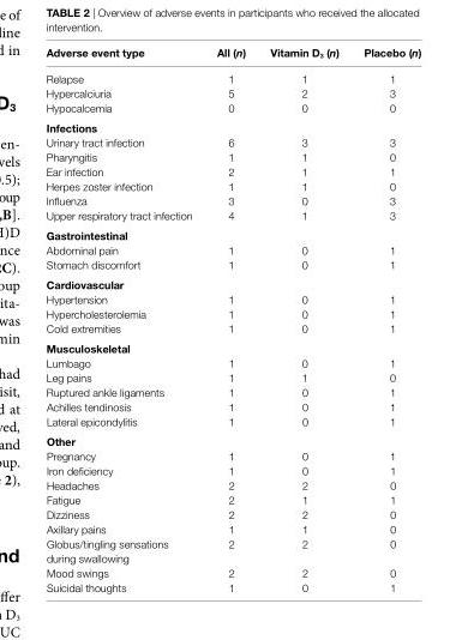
<table><thead><tr><td>adverse event type</td><td>all (n)</td><td>Vitamin D<sub>3</sub> (n)</td><td>Placebo (n)</td></tr></thead><tbody><tr><td>Relapse</td><td>1</td><td>1</td><td>1</td></tr><tr><td>Hypercalciuria</td><td>5</td><td>2</td><td>3</td></tr><tr><td>Hypocalcemia</td><td>0</td><td>0</td><td>0</td></tr><tr><td colspan="4">infections</td></tr><tr><td>Urinary tract infection</td><td>6</td><td>3</td><td>3</td></tr><tr><td>Pharyngitis</td><td>1</td><td>1</td><td>0</td></tr><tr><td>Ear infection</td><td>2</td><td>1</td><td>1</td></tr><tr><td>Herpes zoster infection</td><td>1</td><td>1</td><td>0</td></tr><tr><td>Influenza</td><td>3</td><td>0</td><td>3</td></tr><tr><td>Upper respiratory tract infection</td><td>4</td><td>1</td><td>3</td></tr><tr><td colspan="4">gastrointestinal</td></tr><tr><td>Abdominal pain</td><td>1</td><td>0</td><td>1</td></tr><tr><td>Stomach discomfort</td><td>1</td><td>0</td><td>1</td></tr><tr><td colspan="4">cardiovascular</td></tr><tr><td>Hypertension</td><td>1</td><td>0</td><td>1</td></tr><tr><td>Hypercholesterolemia</td><td>1</td><td>0</td><td>1</td></tr><tr><td>Cold extremities</td><td>1</td><td>0</td><td>1</td></tr><tr><td colspan="4">Musculoskeletal</td></tr><tr><td>Lumbago</td><td>1</td><td>0</td><td>1</td></tr><tr><td>Leg pains</td><td>1</td><td>1</td><td>0</td></tr><tr><td>Ruptured ankle ligaments</td><td>1</td><td>0</td><td>1</td></tr><tr><td>Achilles tendinosis</td><td>1</td><td>0</td><td>1</td></tr><tr><td>Lateral epicondylitis</td><td>1</td><td>0</td><td>1</td></tr><tr><td colspan="4">Other</td></tr><tr><td>Pregnancy</td><td>1</td><td>0</td><td>1</td></tr><tr><td>Iron deficiency</td><td>1</td><td>0</td><td>1</td></tr><tr><td>Headaches</td><td>2</td><td>2</td><td>0</td></tr><tr><td>Fatigue</td><td>2</td><td>1</td><td>1</td></tr><tr><td>Dizziness</td><td>2</td><td>2</td><td>0</td></tr><tr><td>Axillary pains</td><td>1</td><td>1</td><td>0</td></tr><tr><td>Globus/tingling sensations during swallowing</td><td>2</td><td>2</td><td>0</td></tr><tr><td>Mood swings</td><td>2</td><td>2</td><td>0</td></tr><tr><td>Suicidal thoughts</td><td>1</td><td>0</td><td>1</td></tr></tbody></table>